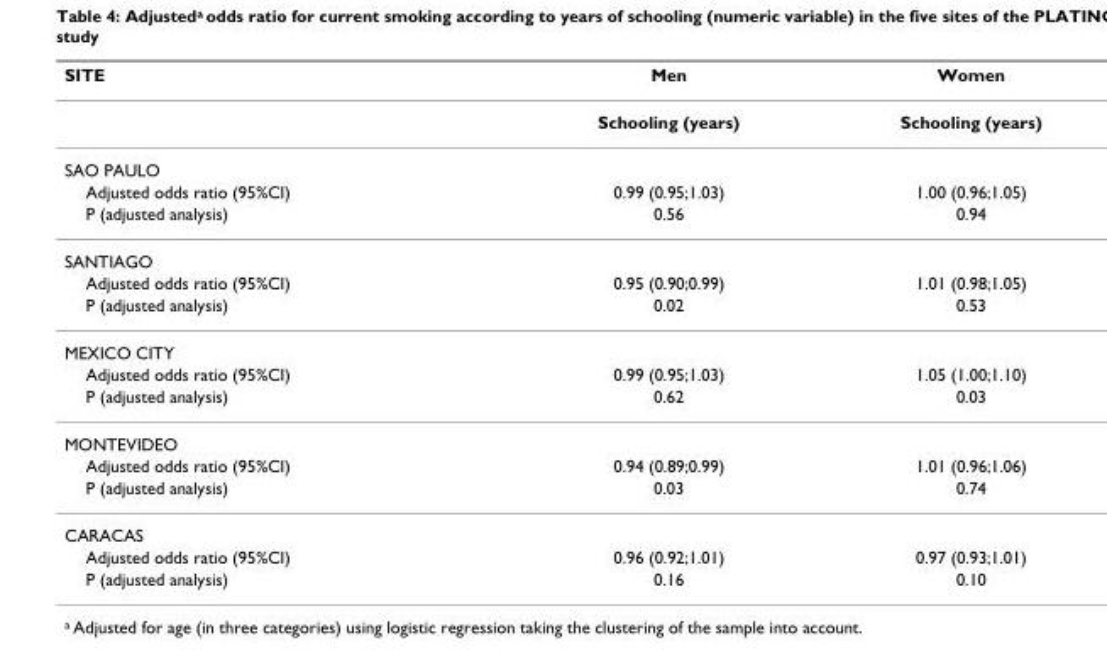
<table><thead><tr><td>SITE</td><td>Men</td><td>Women</td></tr></thead><tbody><tr><td></td><td>Schooling (years)</td><td>Schooling (years)</td></tr><tr><td colspan="3">SAO PAULO</td></tr><tr><td>Adjusted odds ratio (95%CI)</td><td>0.99 (0.95;1.03)</td><td>1.00 (0.96;1.05)</td></tr><tr><td>P (adjusted analysis)</td><td>0.56</td><td>0.94</td></tr><tr><td colspan="3">SANTIAGO</td></tr><tr><td>Adjusted odds ratio (95%CI)</td><td>0.95 (0.90;0.99)</td><td>1.01 (0.98;1.05)</td></tr><tr><td>P (adjusted analysis)</td><td>0.02</td><td>0.53</td></tr><tr><td colspan="3">MEXICO CITY</td></tr><tr><td>Adjusted odds ratio (95%CI)</td><td>0.99 (0.95;1.03)</td><td>1.05 (1.00;1.10)</td></tr><tr><td>P (adjusted analysis)</td><td>0.62</td><td>0.03</td></tr><tr><td colspan="3">MONTEVIDEO</td></tr><tr><td>Adjusted odds ratio (95%CI)</td><td>0.94 (0.89;0.99)</td><td>1.01 (0.96;1.06)</td></tr><tr><td>P (adjusted analysis)</td><td>0.03</td><td>0.74</td></tr><tr><td colspan="3">CARACAS</td></tr><tr><td>Adjusted odds ratio (95%CI)</td><td>0.96 (0.92;1.01)</td><td>0.97 (0.93;1.01)</td></tr><tr><td>P (adjusted analysis)</td><td>0.16</td><td>0.10</td></tr></tbody></table>